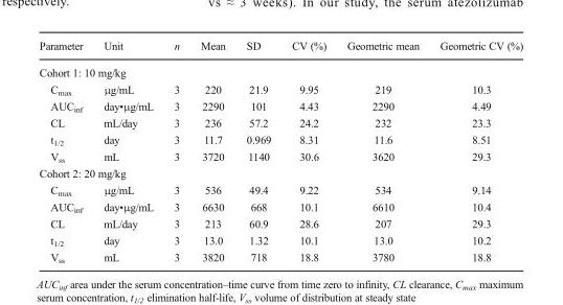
<table><thead><tr><td>Parameter</td><td>Unit</td><td>n</td><td>Mean</td><td>SD</td><td>CV (%)</td><td>Geometric mean</td><td>Geometric CV (%)</td></tr></thead><tbody><tr><td colspan="8">Cohort 1: 10 mg/kg</td></tr><tr><td>C<sub>max</sub></td><td>μg/mL</td><td>3</td><td>220</td><td>21.9</td><td>9.95</td><td>219</td><td>10.3</td></tr><tr><td>AUC<sub>inf</sub></td><td>day•μg/mL</td><td>3</td><td>2290</td><td>101</td><td>4.43</td><td>2290</td><td>4.49</td></tr><tr><td>CL</td><td>mL/day</td><td>3</td><td>236</td><td>57.2</td><td>24.2</td><td>232</td><td>23.3</td></tr><tr><td>t<sub>1/2</sub></td><td>day</td><td>3</td><td>11.7</td><td>0.969</td><td>8.31</td><td>11.6</td><td>8.51</td></tr><tr><td>V<sub>ss</sub></td><td>mL</td><td>3</td><td>3720</td><td>1140</td><td>30.6</td><td>3620</td><td>29.3</td></tr><tr><td colspan="8">Cohort 2: 20 mg/kg</td></tr><tr><td>C<sub>max</sub></td><td>μg/mL</td><td>3</td><td>536</td><td>49.4</td><td>9.22</td><td>534</td><td>9.14</td></tr><tr><td>AUC<sub>inf</sub></td><td>day•μg/mL</td><td>3</td><td>6630</td><td>668</td><td>10.1</td><td>6610</td><td>10.4</td></tr><tr><td>CL</td><td>mL/day</td><td>3</td><td>213</td><td>60.9</td><td>28.6</td><td>207</td><td>29.3</td></tr><tr><td>t<sub>1/2</sub></td><td>day</td><td>3</td><td>13.0</td><td>1.32</td><td>10.1</td><td>13.0</td><td>10.2</td></tr><tr><td>V<sub>ss</sub></td><td>mL</td><td>3</td><td>3820</td><td>718</td><td>18.8</td><td>3780</td><td>18.8</td></tr></tbody></table>